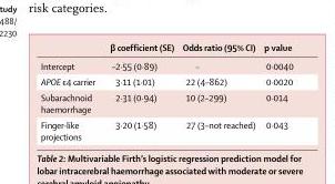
<table><thead><tr><td></td><td>β coefficient (SE)</td><td>Odds ratio (95% CI)</td><td>p value</td></tr></thead><tbody><tr><td>Intercept</td><td>–2·55 (0·89)</td><td>··</td><td>0·0040</td></tr><tr><td>APOE ε4 carrier</td><td>3·11 (1·01)</td><td>22 (4–862)</td><td>0·0020</td></tr><tr><td>Subarachnoid haemorrhage</td><td>2·31 (0·94)</td><td>10 (2–299)</td><td>0·014</td></tr><tr><td>Finger-like projections</td><td>3·20 (1·58)</td><td>27 (3–not reached)</td><td>0·043</td></tr></tbody></table>